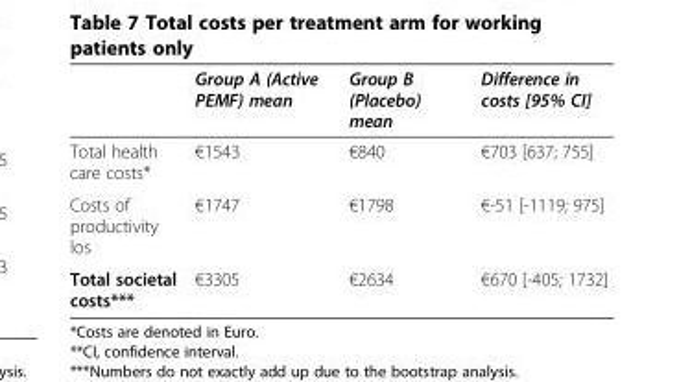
<table><thead><tr><td></td><td>Group A (Active PEMF) mean</td><td>Group B (Placebo) mean</td><td>Difference in costs [95% CI]</td></tr></thead><tbody><tr><td>Total health care costs*</td><td>€1543</td><td>€840</td><td>€703 [637; 755]</td></tr><tr><td>Costs of productivity los</td><td>€1747</td><td>€1798</td><td>€-51 [-1119; 975]</td></tr><tr><td>Total societal costs***</td><td>€3305</td><td>€2634</td><td>€670 [-405; 1732]</td></tr></tbody></table>